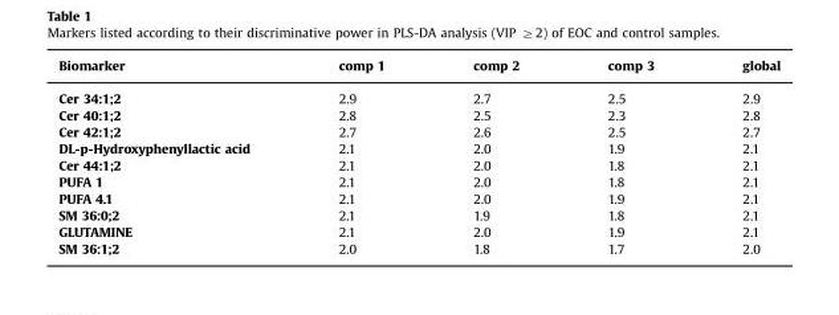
<table><thead><tr><td>Biomarker</td><td>comp 1</td><td>comp 2</td><td>comp 3</td><td>global</td></tr></thead><tbody><tr><td>Cer 34:1;2</td><td>2.9</td><td>2.7</td><td>2.5</td><td>2.9</td></tr><tr><td>Cer 40:1;2</td><td>2.8</td><td>2.5</td><td>2.3</td><td>2.8</td></tr><tr><td>Cer 42:1;2</td><td>2.7</td><td>2.6</td><td>2.5</td><td>2.7</td></tr><tr><td>DL-p-Hydroxyphenyllactic acid</td><td>2.1</td><td>2.0</td><td>1.9</td><td>2.1</td></tr><tr><td>Cer 44:1;2</td><td>2.1</td><td>2.0</td><td>1.8</td><td>2.1</td></tr><tr><td>PUFA 1</td><td>2.1</td><td>2.0</td><td>1.8</td><td>2.1</td></tr><tr><td>PUFA 4.1</td><td>2.1</td><td>2.0</td><td>1.9</td><td>2.1</td></tr><tr><td>SM 36:0;2</td><td>2.1</td><td>1.9</td><td>1.8</td><td>2.1</td></tr><tr><td>GLUTAMINE</td><td>2.1</td><td>2.0</td><td>1.9</td><td>2.1</td></tr><tr><td>SM 36:1;2</td><td>2.0</td><td>1.8</td><td>1.7</td><td>2.0</td></tr></tbody></table>